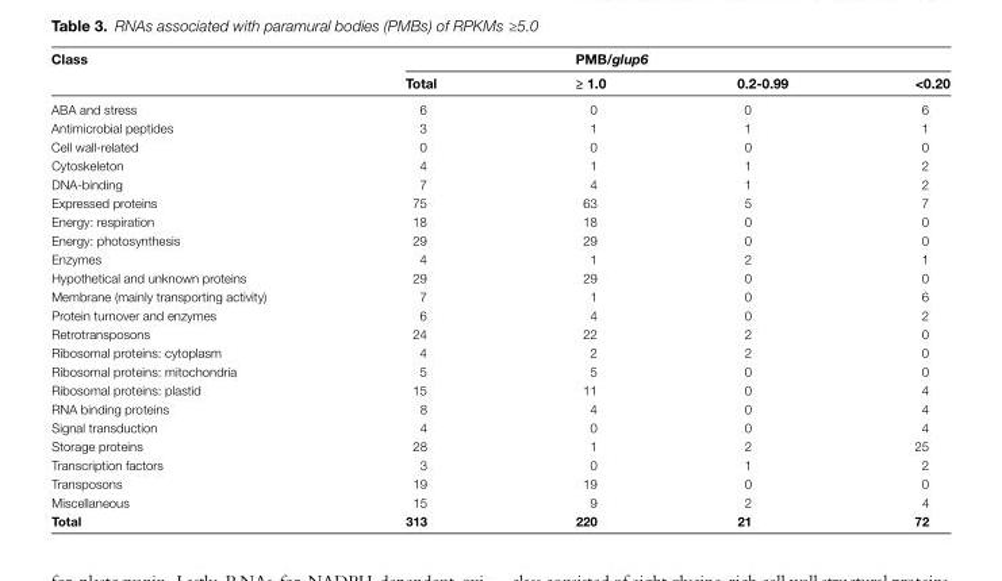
<table><thead><tr><td rowspan="2">Class</td><td rowspan="2">Total</td><td colspan="3">PMB/glup6</td></tr><tr><td>≥ 1.0</td><td>0.2-0.99</td><td>&lt;0.20</td></tr></thead><tbody><tr><td>ABA and stress</td><td>6</td><td>0</td><td>0</td><td>6</td></tr><tr><td>Antimicrobial peptides</td><td>3</td><td>1</td><td>1</td><td>1</td></tr><tr><td>Cell wall-related</td><td>0</td><td>0</td><td>0</td><td>0</td></tr><tr><td>Cytoskeleton</td><td>4</td><td>1</td><td>1</td><td>2</td></tr><tr><td>DNA-binding</td><td>7</td><td>4</td><td>1</td><td>2</td></tr><tr><td>Expressed proteins</td><td>75</td><td>63</td><td>5</td><td>7</td></tr><tr><td>Energy: respiration</td><td>18</td><td>18</td><td>0</td><td>0</td></tr><tr><td>Energy: photosynthesis</td><td>29</td><td>29</td><td>0</td><td>0</td></tr><tr><td>Enzymes</td><td>4</td><td>1</td><td>2</td><td>1</td></tr><tr><td>Hypothetical and unknown proteins</td><td>29</td><td>29</td><td>0</td><td>0</td></tr><tr><td>Membrane (mainly transporting activity)</td><td>7</td><td>1</td><td>0</td><td>6</td></tr><tr><td>Protein turnover and enzymes</td><td>6</td><td>4</td><td>0</td><td>2</td></tr><tr><td>Retrotransposons</td><td>24</td><td>22</td><td>2</td><td>0</td></tr><tr><td>Ribosomal proteins: cytoplasm</td><td>4</td><td>2</td><td>2</td><td>0</td></tr><tr><td>Ribosomal proteins: mitochondria</td><td>5</td><td>5</td><td>0</td><td>0</td></tr><tr><td>Ribosomal proteins: plastid</td><td>15</td><td>11</td><td>0</td><td>4</td></tr><tr><td>RNA binding proteins</td><td>8</td><td>4</td><td>0</td><td>4</td></tr><tr><td>Signal transduction</td><td>4</td><td>0</td><td>0</td><td>4</td></tr><tr><td>Storage proteins</td><td>28</td><td>1</td><td>2</td><td>25</td></tr><tr><td>Transcription factors</td><td>3</td><td>0</td><td>1</td><td>2</td></tr><tr><td>Transposons</td><td>19</td><td>19</td><td>0</td><td>0</td></tr><tr><td>Miscellaneous</td><td>15</td><td>9</td><td>2</td><td>4</td></tr><tr><td>Total</td><td>313</td><td>220</td><td>21</td><td>72</td></tr></tbody></table>